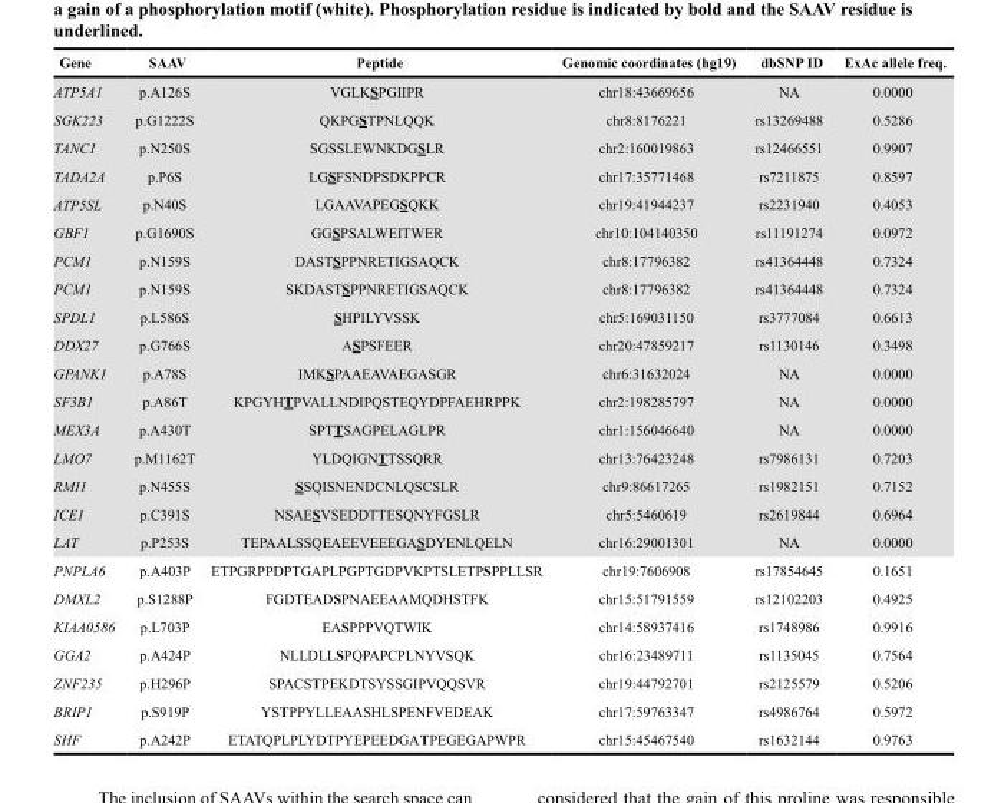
<table><thead><tr><td>Gene</td><td>SAAV</td><td>Peptide</td><td>Genomic coordinates (hg19)</td><td>dbSNP ID</td><td>ExAc allele freq.</td></tr></thead><tbody><tr><td>ATP5A1</td><td>p.A126S</td><td>VGLKSPGIIPR</td><td>chr18:43669656</td><td>NA</td><td>0.0000</td></tr><tr><td>SGK223</td><td>p.G1222S</td><td>QKPGSTPNLQQK</td><td>chr8:8176221</td><td>rs13269488</td><td>0.5286</td></tr><tr><td>TANC1</td><td>p.N250S</td><td>SGSSLEWNKDGSLR</td><td>chr2:160019863</td><td>rs12466551</td><td>0.9907</td></tr><tr><td>TADA2A</td><td>p.P6S</td><td>LGSFSNDPSDKPPCR</td><td>chr17:35771468</td><td>rs7211875</td><td>0.8597</td></tr><tr><td>ATP5SL</td><td>p.N40S</td><td>LGAAVAPEGSQKK</td><td>chr19:41944237</td><td>rs2231940</td><td>0.4053</td></tr><tr><td>GBF1</td><td>p.G1690S</td><td>GGSPSALWEITWER</td><td>chr10:104140350</td><td>rs11191274</td><td>0.0972</td></tr><tr><td>PCM1</td><td>p.N159S</td><td>DASTSPPNRETIGSAQCK</td><td>chr8:17796382</td><td>rs41364448</td><td>0.7324</td></tr><tr><td>PCM1</td><td>p.N159S</td><td>SKDASTSPPNRETIGSAQCK</td><td>chr8:17796382</td><td>rs41364448</td><td>0.7324</td></tr><tr><td>SPDL1</td><td>p.L586S</td><td>SHPILYVSSK</td><td>chr5:169031150</td><td>rs3777084</td><td>0.6613</td></tr><tr><td>DDX27</td><td>p.G766S</td><td>ASPSFEER</td><td>chr20:47859217</td><td>rs1130146</td><td>0.3498</td></tr><tr><td>GPANK1</td><td>p.A78S</td><td>IMKSPAAEAVAEGASGR</td><td>chr6:31632024</td><td>NA</td><td>0.0000</td></tr><tr><td>SF3B1</td><td>p.A86T</td><td>KPGYHTPVALLNDIPQSTEQYDPFAEHRPPK</td><td>chr2:198285797</td><td>NA</td><td>0.0000</td></tr><tr><td>MEX3A</td><td>p.A430T</td><td>SPTTSAGPELAGLPR</td><td>chr1:156046640</td><td>NA</td><td>0.0000</td></tr><tr><td>LMO7</td><td>p.M1162T</td><td>YLDQIGNTTSSQRR</td><td>chr13:76423248</td><td>rs7986131</td><td>0.7203</td></tr><tr><td>RMI1</td><td>p.N455S</td><td>SSQISNENDCNLQSCSLR</td><td>chr9:86617265</td><td>rs1982151</td><td>0.7152</td></tr><tr><td>ICE1</td><td>p.C391S</td><td>NSAESVSEDDTTESQNYFGSLR</td><td>chr5:5460619</td><td>rs2619844</td><td>0.6964</td></tr><tr><td>LAT</td><td>p.P253S</td><td>TEPAALSSQEAEEVEEEGASDYENLQELN</td><td>chr16:29001301</td><td>NA</td><td>0.0000</td></tr><tr><td>PNPLA6</td><td>p.A403P</td><td>ETPGRPPDPTGAPLPGPTGDPVKPTSLETPSPPLLSR</td><td>chr19:7606908</td><td>rs17854645</td><td>0.1651</td></tr><tr><td>DMXL2</td><td>p.S1288P</td><td>FGDTEADSPNAEEAAMQDHSTFK</td><td>chr15:51791559</td><td>rs12102203</td><td>0.4925</td></tr><tr><td>KIAA0586</td><td>p.L703P</td><td>EASPPPVQTWIK</td><td>chr14:58937416</td><td>rs1748986</td><td>0.9916</td></tr><tr><td>GGA2</td><td>p.A424P</td><td>NLLDLLSPQPAPCPLNYVSQK</td><td>chr16:23489711</td><td>rs1135045</td><td>0.7564</td></tr><tr><td>ZNF235</td><td>p.H296P</td><td>SPACSTPEKDTSYSSGIPVQQSVR</td><td>chr19:44792701</td><td>rs2125579</td><td>0.5206</td></tr><tr><td>BRIP1</td><td>p.S919P</td><td>YSTPPYLLEAASHLSPENFVEDEAK</td><td>chr17:59763347</td><td>rs4986764</td><td>0.5972</td></tr><tr><td>SHF</td><td>p.A242P</td><td>ETATQPLPLYDTPYEPEEDGATPEGEGAPWPR</td><td>chr15:45467540</td><td>rs1632144</td><td>0.9763</td></tr></tbody></table>